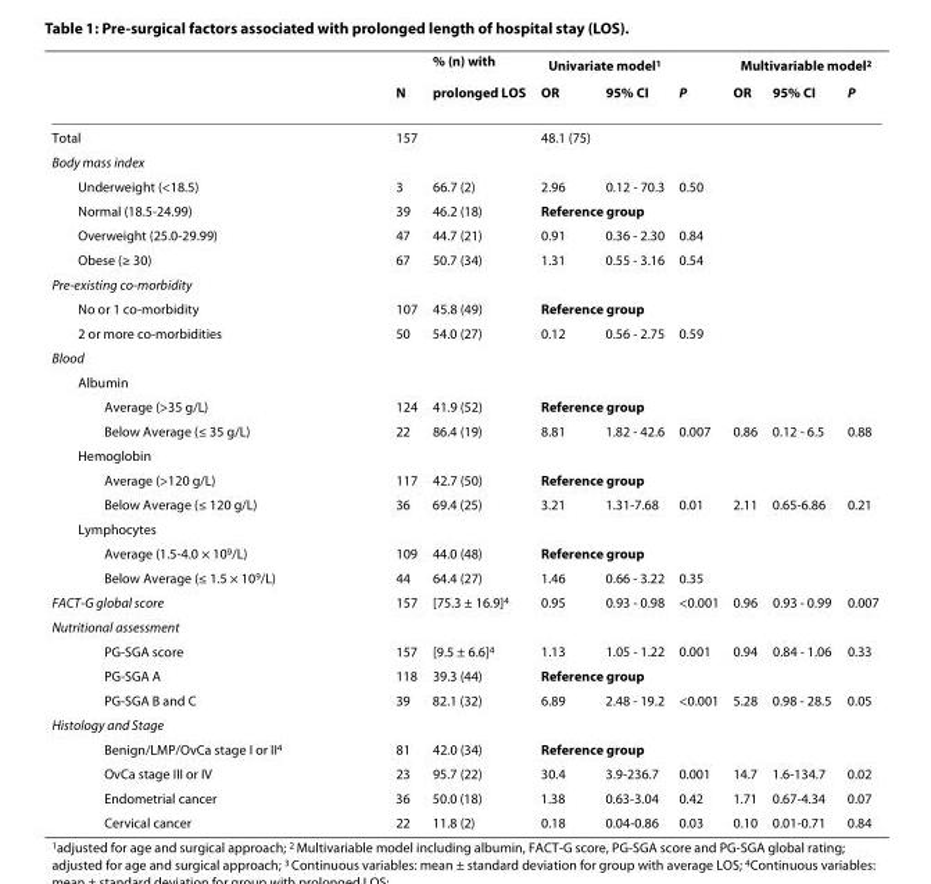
<table><thead><tr><td rowspan="2"></td><td rowspan="2">N</td><td rowspan="2">% (n) with prolonged LOS</td><td colspan="3">Univariate model<sup>1</sup></td><td colspan="3">Multivariable model<sup>2</sup></td></tr><tr><td>OR</td><td>95% CI</td><td>P</td><td>OR</td><td>95% CI</td><td>P</td></tr></thead><tbody><tr><td>Total</td><td>157</td><td></td><td>48.1 (75)</td><td></td><td></td><td></td><td></td><td></td></tr><tr><td colspan="9">Body mass index</td></tr><tr><td>Underweight (&lt;18.5)</td><td>3</td><td>66.7 (2)</td><td>2.96</td><td>0.12 - 70.3</td><td>0.50</td><td></td><td></td><td></td></tr><tr><td>Normal (18.5-24.99)</td><td>39</td><td>46.2 (18)</td><td colspan="2">Reference group</td><td></td><td></td><td></td><td></td></tr><tr><td>Overweight (25.0-29.99)</td><td>47</td><td>44.7 (21)</td><td>0.91</td><td>0.36 - 2.30</td><td>0.84</td><td></td><td></td><td></td></tr><tr><td>Obese (≥ 30)</td><td>67</td><td>50.7 (34)</td><td>1.31</td><td>0.55 - 3.16</td><td>0.54</td><td></td><td></td><td></td></tr><tr><td colspan="9">Pre-existing co-morbidity</td></tr><tr><td>No or 1 co-morbidity</td><td>107</td><td>45.8 (49)</td><td colspan="2">Reference group</td><td></td><td></td><td></td><td></td></tr><tr><td>2 or more co-morbidities</td><td>50</td><td>54.0 (27)</td><td>0.12</td><td>0.56 - 2.75</td><td>0.59</td><td></td><td></td><td></td></tr><tr><td colspan="9">Blood</td></tr><tr><td colspan="9">Albumin</td></tr><tr><td>Average (&gt;35 g/L)</td><td>124</td><td>41.9 (52)</td><td colspan="2">Reference group</td><td></td><td></td><td></td><td></td></tr><tr><td>Below Average (≤ 35 g/L)</td><td>22</td><td>86.4 (19)</td><td>8.81</td><td>1.82 - 42.6</td><td>0.007</td><td>0.86</td><td>0.12 - 6.5</td><td>0.88</td></tr><tr><td colspan="9">Hemoglobin</td></tr><tr><td>Average (&gt;120 g/L)</td><td>117</td><td>42.7 (50)</td><td colspan="2">Reference group</td><td></td><td></td><td></td><td></td></tr><tr><td>Below Average (≤ 120 g/L)</td><td>36</td><td>69.4 (25)</td><td>3.21</td><td>1.31-7.68</td><td>0.01</td><td>2.11</td><td>0.65-6.86</td><td>0.21</td></tr><tr><td colspan="9">Lymphocytes</td></tr><tr><td>Average (1.5-4.0 × 10<sup>9</sup>/L)</td><td>109</td><td>44.0 (48)</td><td colspan="2">Reference group</td><td></td><td></td><td></td><td></td></tr><tr><td>Below Average (≤ 1.5 × 10<sup>9</sup>/L)</td><td>44</td><td>64.4 (27)</td><td>1.46</td><td>0.66 - 3.22</td><td>0.35</td><td></td><td></td><td></td></tr><tr><td>FACT-G global score</td><td>157</td><td>[75.3 ± 16.9]<sup>4</sup></td><td>0.95</td><td>0.93 - 0.98</td><td>&lt;0.001</td><td>0.96</td><td>0.93 - 0.99</td><td>0.007</td></tr><tr><td colspan="9">Nutritional assessment</td></tr><tr><td>PG-SGA score</td><td>157</td><td>[9.5 ± 6.6]<sup>4</sup></td><td>1.13</td><td>1.05 - 1.22</td><td>0.001</td><td>0.94</td><td>0.84 - 1.06</td><td>0.33</td></tr><tr><td>PG-SGA A</td><td>118</td><td>39.3 (44)</td><td colspan="2">Reference group</td><td></td><td></td><td></td><td></td></tr><tr><td>PG-SGA B and C</td><td>39</td><td>82.1 (32)</td><td>6.89</td><td>2.48 - 19.2</td><td>&lt;0.001</td><td>5.28</td><td>0.98 - 28.5</td><td>0.05</td></tr><tr><td colspan="9">Histology and Stage</td></tr><tr><td>Benign/LMP/OvCa stage I or II<sup>4</sup></td><td>81</td><td>42.0 (34)</td><td colspan="2">Reference group</td><td></td><td></td><td></td><td></td></tr><tr><td>OvCa stage III or IV</td><td>23</td><td>95.7 (22)</td><td>30.4</td><td>3.9-236.7</td><td>0.001</td><td>14.7</td><td>1.6-134.7</td><td>0.02</td></tr><tr><td>Endometrial cancer</td><td>36</td><td>50.0 (18)</td><td>1.38</td><td>0.63-3.04</td><td>0.42</td><td>1.71</td><td>0.67-4.34</td><td>0.07</td></tr><tr><td>Cervical cancer</td><td>22</td><td>11.8 (2)</td><td>0.18</td><td>0.04-0.86</td><td>0.03</td><td>0.10</td><td>0.01-0.71</td><td>0.84</td></tr></tbody></table>